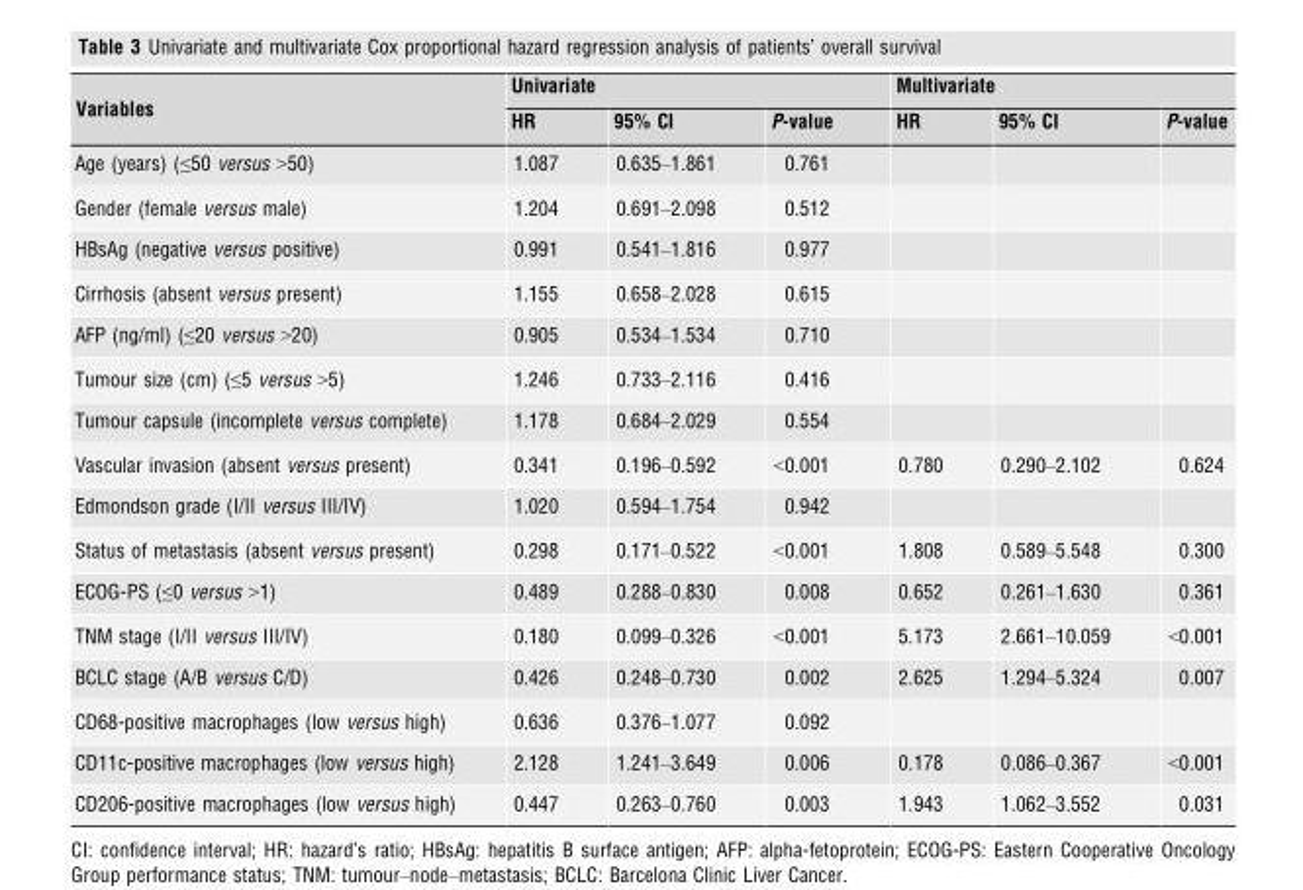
<table><thead><tr><td rowspan="2">Variables</td><td colspan="3">Univariate</td><td colspan="3">Multivariate</td></tr><tr><td>HR</td><td>95% CI</td><td>P-value</td><td>HR</td><td>95% CI</td><td>P-value</td></tr></thead><tbody><tr><td>Age (years) (≤50 versus &gt;50)</td><td>1.087</td><td>0.635–1.861</td><td>0.761</td><td></td><td></td><td></td></tr><tr><td>Gender (female versus male)</td><td>1.204</td><td>0.691–2.098</td><td>0.512</td><td></td><td></td><td></td></tr><tr><td>HBsAg (negative versus positive)</td><td>0.991</td><td>0.541–1.816</td><td>0.977</td><td></td><td></td><td></td></tr><tr><td>Cirrhosis (absent versus present)</td><td>1.155</td><td>0.658–2.028</td><td>0.615</td><td></td><td></td><td></td></tr><tr><td>AFP (ng/ml) (≤20 versus &gt;20)</td><td>0.905</td><td>0.534–1.534</td><td>0.710</td><td></td><td></td><td></td></tr><tr><td>Tumour size (cm) (≤5 versus &gt;5)</td><td>1.246</td><td>0.733–2.116</td><td>0.416</td><td></td><td></td><td></td></tr><tr><td>Tumour capsule (incomplete versus complete)</td><td>1.178</td><td>0.684–2.029</td><td>0.554</td><td></td><td></td><td></td></tr><tr><td>Vascular invasion (absent versus present)</td><td>0.341</td><td>0.196–0.592</td><td>&lt;0.001</td><td>0.780</td><td>0.290–2.102</td><td>0.624</td></tr><tr><td>Edmondson grade (I/II versus III/IV)</td><td>1.020</td><td>0.594–1.754</td><td>0.942</td><td></td><td></td><td></td></tr><tr><td>Status of metastasis (absent versus present)</td><td>0.298</td><td>0.171–0.522</td><td>&lt;0.001</td><td>1.808</td><td>0.589–5.548</td><td>0.300</td></tr><tr><td>ECOG-PS (≤0 versus &gt;1)</td><td>0.489</td><td>0.288–0.830</td><td>0.008</td><td>0.652</td><td>0.261–1.630</td><td>0.361</td></tr><tr><td>TNM stage (I/II versus III/IV)</td><td>0.180</td><td>0.099–0.326</td><td>&lt;0.001</td><td>5.173</td><td>2.661–10.059</td><td>&lt;0.001</td></tr><tr><td>BCLC stage (A/B versus C/D)</td><td>0.426</td><td>0.248–0.730</td><td>0.002</td><td>2.625</td><td>1.294–5.324</td><td>0.007</td></tr><tr><td>CD68-positive macrophages (low versus high)</td><td>0.636</td><td>0.376–1.077</td><td>0.092</td><td></td><td></td><td></td></tr><tr><td>CD11c-positive macrophages (low versus high)</td><td>2.128</td><td>1.241–3.649</td><td>0.006</td><td>0.178</td><td>0.086–0.367</td><td>&lt;0.001</td></tr><tr><td>CD206-positive macrophages (low versus high)</td><td>0.447</td><td>0.263–0.760</td><td>0.003</td><td>1.943</td><td>1.062–3.552</td><td>0.031</td></tr></tbody></table>